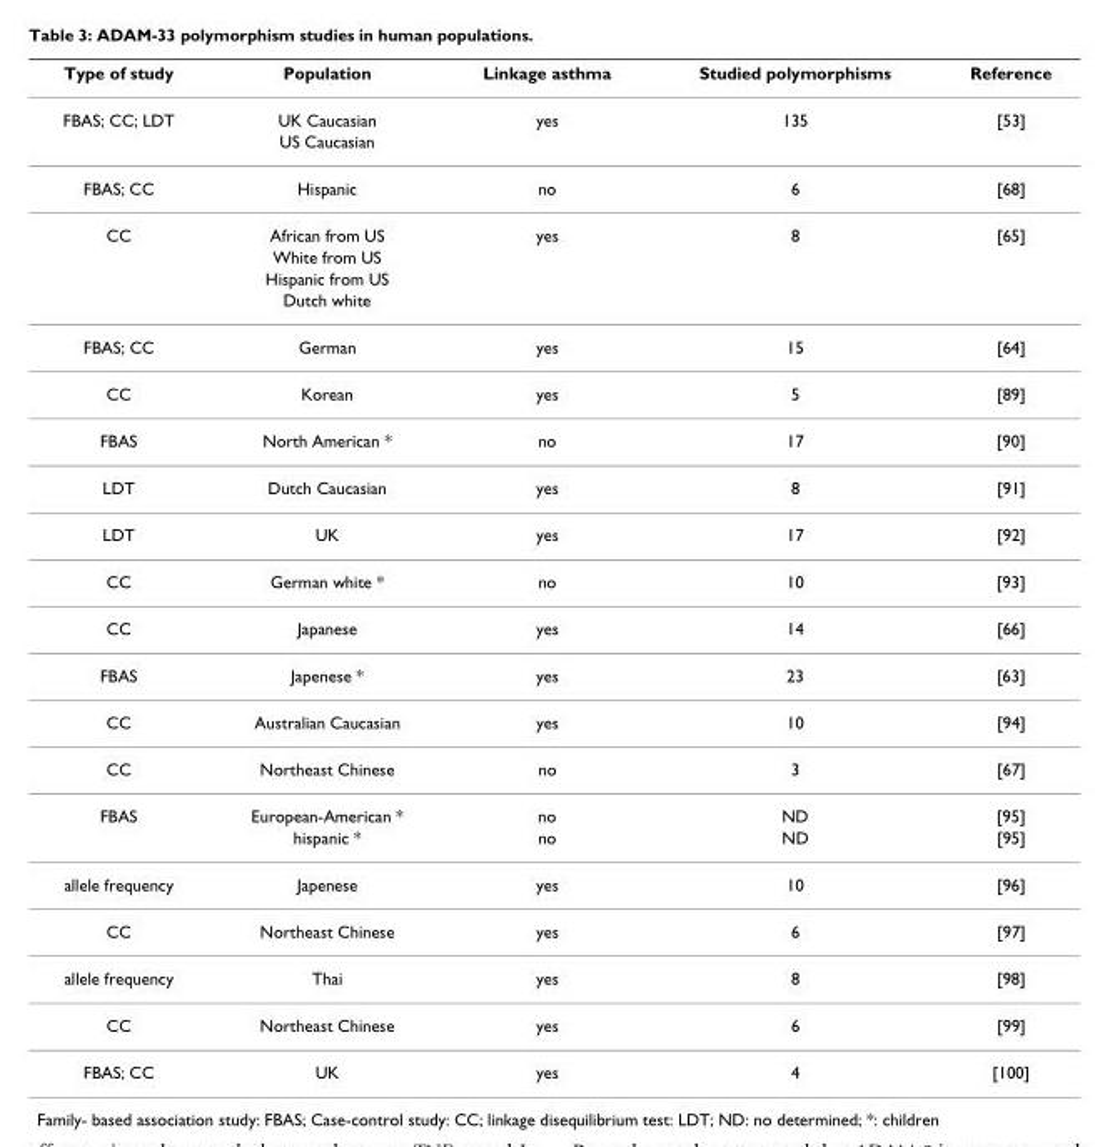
<table><thead><tr><td>Type of study</td><td>Population</td><td>Linkage asthma</td><td>Studied polymorphisms</td><td>Reference</td></tr></thead><tbody><tr><td rowspan="2">FBAS; CC; LDT</td><td>UK Caucasian</td><td>yes</td><td>135</td><td>[53]</td></tr><tr><td>US Caucasian</td><td></td><td></td><td></td></tr><tr><td>FBAS; CC</td><td>Hispanic</td><td>no</td><td>6</td><td>[68]</td></tr><tr><td rowspan="4">CC</td><td>African from US</td><td>yes</td><td>8</td><td>[65]</td></tr><tr><td>White from US</td><td></td><td></td><td></td></tr><tr><td>Hispanic from US</td><td></td><td></td><td></td></tr><tr><td>Dutch white</td><td></td><td></td><td></td></tr><tr><td>FBAS; CC</td><td>German</td><td>yes</td><td>15</td><td>[64]</td></tr><tr><td>CC</td><td>Korean</td><td>yes</td><td>5</td><td>[89]</td></tr><tr><td>FBAS</td><td>North American *</td><td>no</td><td>17</td><td>[90]</td></tr><tr><td>LDT</td><td>Dutch Caucasian</td><td>yes</td><td>8</td><td>[91]</td></tr><tr><td>LDT</td><td>UK</td><td>yes</td><td>17</td><td>[92]</td></tr><tr><td>CC</td><td>German white *</td><td>no</td><td>10</td><td>[93]</td></tr><tr><td>CC</td><td>Japanese</td><td>yes</td><td>14</td><td>[66]</td></tr><tr><td>FBAS</td><td>Japenese *</td><td>yes</td><td>23</td><td>[63]</td></tr><tr><td>CC</td><td>Australian Caucasian</td><td>yes</td><td>10</td><td>[94]</td></tr><tr><td>CC</td><td>Northeast Chinese</td><td>no</td><td>3</td><td>[67]</td></tr><tr><td rowspan="2">FBAS</td><td>European-American *</td><td>no</td><td>ND</td><td>[95]</td></tr><tr><td>hispanic *</td><td>no</td><td>ND</td><td>[95]</td></tr><tr><td>allele frequency</td><td>Japenese</td><td>yes</td><td>10</td><td>[96]</td></tr><tr><td>CC</td><td>Northeast Chinese</td><td>yes</td><td>6</td><td>[97]</td></tr><tr><td>allele frequency</td><td>Thai</td><td>yes</td><td>8</td><td>[98]</td></tr><tr><td>CC</td><td>Northeast Chinese</td><td>yes</td><td>6</td><td>[99]</td></tr><tr><td>FBAS; CC</td><td>UK</td><td>yes</td><td>4</td><td>[100]</td></tr></tbody></table>